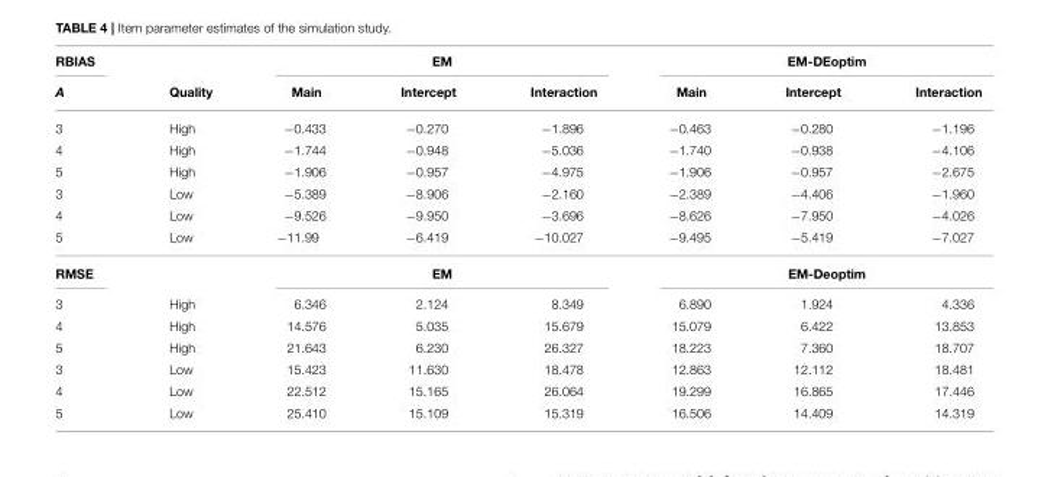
<table><thead><tr><td rowspan="2">RBIAS A</td><td rowspan="2">Quality</td><td colspan="3">EM</td><td colspan="3">EM-DEoptim</td></tr><tr><td>Main</td><td>Intercept</td><td>Interaction</td><td>Main</td><td>Intercept</td><td>Interaction</td></tr></thead><tbody><tr><td>3</td><td>High</td><td>−0.433</td><td>−0.270</td><td>−1.896</td><td>−0.463</td><td>−0.280</td><td>−1.196</td></tr><tr><td>4</td><td>High</td><td>−1.744</td><td>−0.948</td><td>−5.036</td><td>−1.740</td><td>−0.938</td><td>−4.106</td></tr><tr><td>5</td><td>High</td><td>−1.906</td><td>−0.957</td><td>−4.975</td><td>−1.906</td><td>−0.957</td><td>−2.675</td></tr><tr><td>3</td><td>Low</td><td>−5.389</td><td>−8.906</td><td>−2.160</td><td>−2.389</td><td>−4.406</td><td>−1.960</td></tr><tr><td>4</td><td>Low</td><td>−9.526</td><td>−9.950</td><td>−3.696</td><td>−8.626</td><td>−7.950</td><td>−4.026</td></tr><tr><td>5</td><td>Low</td><td>−11.99</td><td>−6.419</td><td>−10.027</td><td>−9.495</td><td>−5.419</td><td>−7.027</td></tr><tr><td>RMSE</td><td></td><td colspan="3">EM</td><td colspan="3">EM-Deoptim</td></tr><tr><td>3</td><td>High</td><td>6.346</td><td>2.124</td><td>8.349</td><td>6.890</td><td>1.924</td><td>4.336</td></tr><tr><td>4</td><td>High</td><td>14.576</td><td>5.035</td><td>15.679</td><td>15.079</td><td>6.422</td><td>13.853</td></tr><tr><td>5</td><td>High</td><td>21.643</td><td>6.230</td><td>26.327</td><td>18.223</td><td>7.360</td><td>18.707</td></tr><tr><td>3</td><td>Low</td><td>15.423</td><td>11.630</td><td>18.478</td><td>12.863</td><td>12.112</td><td>18.481</td></tr><tr><td>4</td><td>Low</td><td>22.512</td><td>15.165</td><td>26.064</td><td>19.299</td><td>16.865</td><td>17.446</td></tr><tr><td>5</td><td>Low</td><td>25.410</td><td>15.109</td><td>15.319</td><td>16.506</td><td>14.409</td><td>14.319</td></tr></tbody></table>